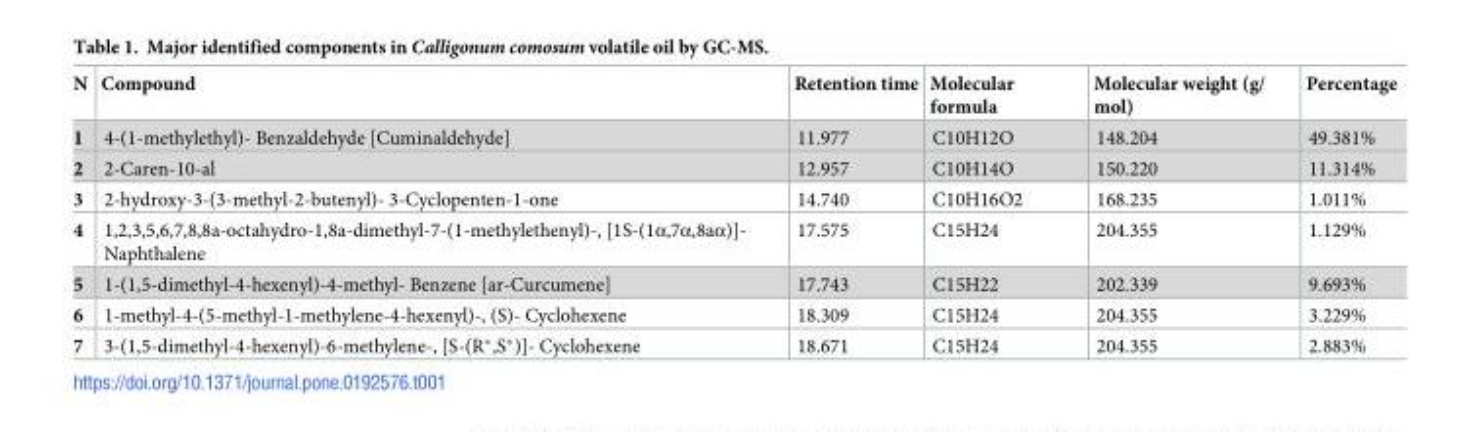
<table><thead><tr><td>N</td><td>Compound</td><td>Retention time</td><td>Molecular formula</td><td>Molecular weight (g/ mol)</td><td>Percentage</td></tr></thead><tbody><tr><td>1</td><td>4-(1-methylethyl)- Benzaldehyde [Cuminaldehyde]</td><td>11.977</td><td>C10H12O</td><td>148.204</td><td>49.381%</td></tr><tr><td>2</td><td>2-Caren-10-al</td><td>12.957</td><td>C10H14O</td><td>150.220</td><td>11.314%</td></tr><tr><td>3</td><td>2-hydroxy-3-(3-methyl-2-butenyl)- 3-Cyclopenten-1-one</td><td>14.740</td><td>C10H16O2</td><td>168.235</td><td>1.011%</td></tr><tr><td>4</td><td>1,2,3,5,6,7,8,8a-octahydro-1,8a-dimethyl-7-(1-methylethenyl)-, [1S-(1α,7α,8aα)]- Naphthalene</td><td>17.575</td><td>C15H24</td><td>204.355</td><td>1.129%</td></tr><tr><td>5</td><td>1-(1,5-dimethyl-4-hexenyl)-4-methyl- Benzene [ar-Curcumene]</td><td>17.743</td><td>C15H22</td><td>202.339</td><td>9.693%</td></tr><tr><td>6</td><td>1-methyl-4-(5-methyl-1-methylene-4-hexenyl)-, (S)- Cyclohexene</td><td>18.309</td><td>C15H24</td><td>204.355</td><td>3.229%</td></tr><tr><td>7</td><td>3-(1,5-dimethyl-4-hexenyl)-6-methylene-, [S-(R*,S*)]- Cyclohexene</td><td>18.671</td><td>C15H24</td><td>204.355</td><td>2.883%</td></tr></tbody></table>